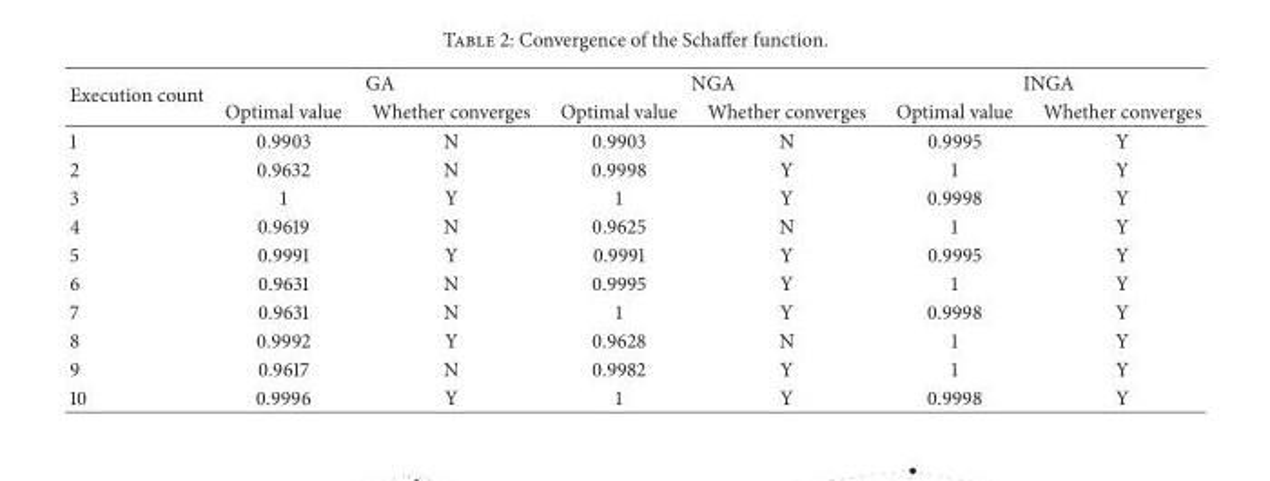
<table><thead><tr><td rowspan="2">Execution count</td><td colspan="2">GA</td><td colspan="2">NGA</td><td colspan="2">INGA</td></tr><tr><td>Optimal value</td><td>Whether converges</td><td>Optimal value</td><td>Whether converges</td><td>Optimal value</td><td>Whether converges</td></tr></thead><tbody><tr><td>1</td><td>0.9903</td><td>N</td><td>0.9903</td><td>N</td><td>0.9995</td><td>Y</td></tr><tr><td>2</td><td>0.9632</td><td>N</td><td>0.9998</td><td>Y</td><td>1</td><td>Y</td></tr><tr><td>3</td><td>1</td><td>Y</td><td>1</td><td>Y</td><td>0.9998</td><td>Y</td></tr><tr><td>4</td><td>0.9619</td><td>N</td><td>0.9625</td><td>N</td><td>1</td><td>Y</td></tr><tr><td>5</td><td>0.9991</td><td>Y</td><td>0.9991</td><td>Y</td><td>0.9995</td><td>Y</td></tr><tr><td>6</td><td>0.9631</td><td>N</td><td>0.9995</td><td>Y</td><td>1</td><td>Y</td></tr><tr><td>7</td><td>0.9631</td><td>N</td><td>1</td><td>Y</td><td>0.9998</td><td>Y</td></tr><tr><td>8</td><td>0.9992</td><td>Y</td><td>0.9628</td><td>N</td><td>1</td><td>Y</td></tr><tr><td>9</td><td>0.9617</td><td>N</td><td>0.9982</td><td>Y</td><td>1</td><td>Y</td></tr><tr><td>10</td><td>0.9996</td><td>Y</td><td>1</td><td>Y</td><td>0.9998</td><td>Y</td></tr></tbody></table>